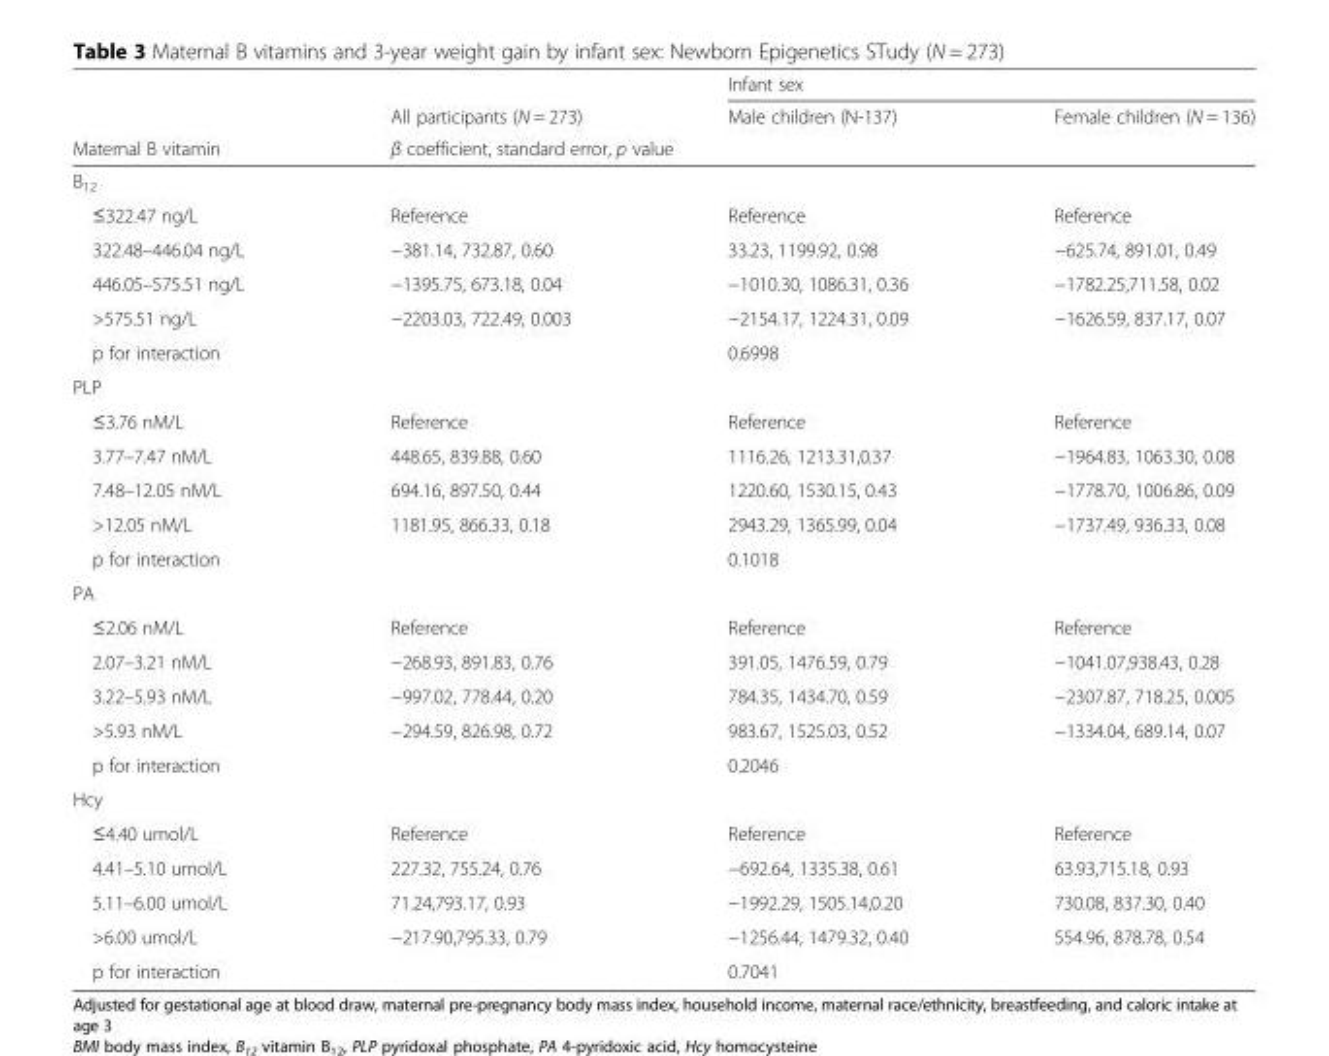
<table><thead><tr><td rowspan="3">Maternal B vitamin</td><td rowspan="2">All participants (N = 273)</td><td colspan="2">Infant sex</td></tr><tr><td>Male children (N-137)</td><td>Female children (N = 136)</td></tr><tr><td colspan="3">β coefficient, standard error, p value</td></tr></thead><tbody><tr><td colspan="4">B<sub>12</sub></td></tr><tr><td>≤322.47 ng/L</td><td>Reference</td><td>Reference</td><td>Reference</td></tr><tr><td>322.48–446.04 ng/L</td><td>−381.14, 732.87, 0.60</td><td>33.23, 1199.92, 0.98</td><td>−625.74, 891.01, 0.49</td></tr><tr><td>446.05–575.51 ng/L</td><td>−1395.75, 673.18, 0.04</td><td>−1010.30, 1086.31, 0.36</td><td>−1782.25,711.58, 0.02</td></tr><tr><td>&gt;575.51 ng/L</td><td>−2203.03, 722.49, 0.003</td><td>−2154.17, 1224.31, 0.09</td><td>−1626.59, 837.17, 0.07</td></tr><tr><td colspan="2">p for interaction</td><td colspan="2">0.6998</td></tr><tr><td colspan="4">PLP</td></tr><tr><td>≤3.76 nM/L</td><td>Reference</td><td>Reference</td><td>Reference</td></tr><tr><td>3.77–7.47 nM/L</td><td>448.65, 839.88, 0.60</td><td>1116.26, 1213.31,0.37</td><td>−1964.83, 1063.30, 0.08</td></tr><tr><td>7.48–12.05 nM/L</td><td>694.16, 897.50, 0.44</td><td>1220.60, 1530.15, 0.43</td><td>−1778.70, 1006.86, 0.09</td></tr><tr><td>&gt;12.05 nM/L</td><td>1181.95, 866.33, 0.18</td><td>2943.29, 1365.99, 0.04</td><td>−1737.49, 936.33, 0.08</td></tr><tr><td colspan="2">p for interaction</td><td colspan="2">0.1018</td></tr><tr><td colspan="4">PA</td></tr><tr><td>≤2.06 nM/L</td><td>Reference</td><td>Reference</td><td>Reference</td></tr><tr><td>2.07–3.21 nM/L</td><td>−268.93, 891.83, 0.76</td><td>391.05, 1476.59, 0.79</td><td>−1041.07,938.43, 0.28</td></tr><tr><td>3.22–5.93 nM/L</td><td>−997.02, 778.44, 0.20</td><td>784.35, 1434.70, 0.59</td><td>−2307.87, 718.25, 0.005</td></tr><tr><td>&gt;5.93 nM/L</td><td>−294.59, 826.98, 0.72</td><td>983.67, 1525.03, 0.52</td><td>−1334.04, 689.14, 0.07</td></tr><tr><td colspan="2">p for interaction</td><td colspan="2">0.2046</td></tr><tr><td colspan="4">Hcy</td></tr><tr><td>≤4.40 umol/L</td><td>Reference</td><td>Reference</td><td>Reference</td></tr><tr><td>4.41–5.10 umol/L</td><td>227.32, 755.24, 0.76</td><td>−692.64, 1335.38, 0.61</td><td>63.93,715.18, 0.93</td></tr><tr><td>5.11–6.00 umol/L</td><td>71.24,793.17, 0.93</td><td>−1992.29, 1505.14,0.20</td><td>730.08, 837.30, 0.40</td></tr><tr><td>&gt;6.00 umol/L</td><td>−217.90,795.33, 0.79</td><td>−1256.44, 1479.32, 0.40</td><td>554.96, 878.78, 0.54</td></tr><tr><td colspan="2">p for interaction</td><td colspan="2">0.7041</td></tr></tbody></table>